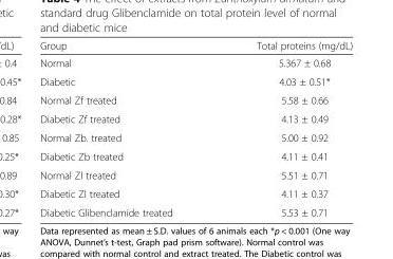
<table><thead><tr><td>Group</td><td>Total proteins (mg/dL)</td></tr></thead><tbody><tr><td>Normal</td><td>5.367 ± 0.68</td></tr><tr><td>Diabetic</td><td>4.03 ± 0.51*</td></tr><tr><td>Normal Zf treated</td><td>5.58 ± 0.66</td></tr><tr><td>Diabetic Zf treated</td><td>4.13 ± 0.49</td></tr><tr><td>Normal Zb. treated</td><td>5.00 ± 0.92</td></tr><tr><td>Diabetic Zb treated</td><td>4.11 ± 0.41</td></tr><tr><td>Normal Zl treated</td><td>5.51 ± 0.71</td></tr><tr><td>Diabetic Zl treated</td><td>4.11 ± 0.37</td></tr><tr><td>Diabetic Glibenclamide treated</td><td>5.53 ± 0.71</td></tr></tbody></table>